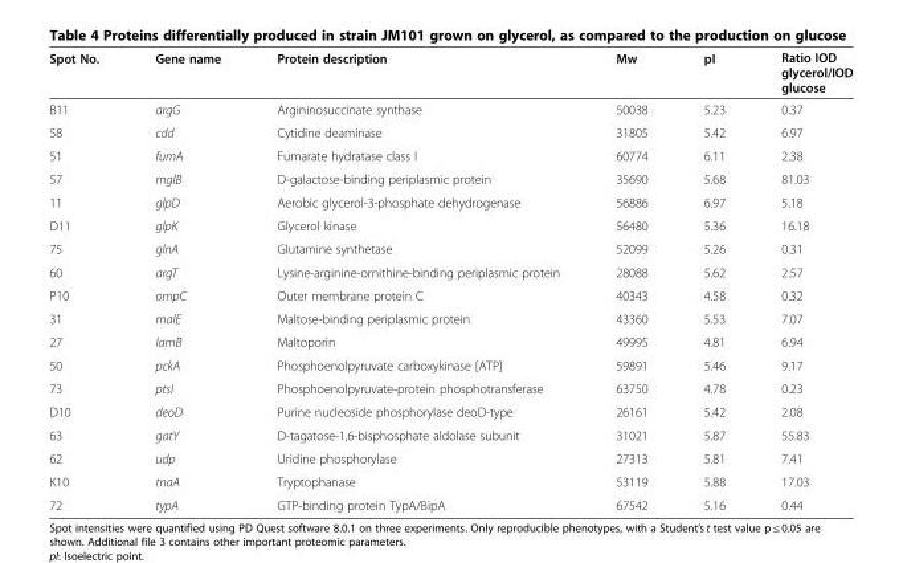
<table><thead><tr><td>Spot No.</td><td>Gene name</td><td>Protein description</td><td>Mw</td><td>pI</td><td>Ratio IOD glycerol/IOD glucose</td></tr></thead><tbody><tr><td>B11</td><td>argG</td><td>Argininosuccinate synthase</td><td>50038</td><td>5.23</td><td>0.37</td></tr><tr><td>58</td><td>cdd</td><td>Cytidine deaminase</td><td>31805</td><td>5.42</td><td>6.97</td></tr><tr><td>51</td><td>fumA</td><td>Fumarate hydratase class I</td><td>60774</td><td>6.11</td><td>2.38</td></tr><tr><td>57</td><td>mglB</td><td>D-galactose-binding periplasmic protein</td><td>35690</td><td>5.68</td><td>81.03</td></tr><tr><td>11</td><td>glpD</td><td>Aerobic glycerol-3-phosphate dehydrogenase</td><td>56886</td><td>6.97</td><td>5.18</td></tr><tr><td>D11</td><td>glpK</td><td>Glycerol kinase</td><td>56480</td><td>5.36</td><td>16.18</td></tr><tr><td>75</td><td>glnA</td><td>Glutamine synthetase</td><td>52099</td><td>5.26</td><td>0.31</td></tr><tr><td>60</td><td>argT</td><td>Lysine-arginine-ornithine-binding periplasmic protein</td><td>28088</td><td>5.62</td><td>2.57</td></tr><tr><td>P10</td><td>ompC</td><td>Outer membrane protein C</td><td>40343</td><td>4.58</td><td>0.32</td></tr><tr><td>31</td><td>malE</td><td>Maltose-binding periplasmic protein</td><td>43360</td><td>5.53</td><td>7.07</td></tr><tr><td>27</td><td>lamB</td><td>Maltoporin</td><td>49995</td><td>4.81</td><td>6.94</td></tr><tr><td>50</td><td>pckA</td><td>Phosphoenolpyruvate carboxykinase [ATP]</td><td>59891</td><td>5.46</td><td>9.17</td></tr><tr><td>73</td><td>ptsI</td><td>Phosphoenolpyruvate-protein phosphotransferase</td><td>63750</td><td>4.78</td><td>0.23</td></tr><tr><td>D10</td><td>deoD</td><td>Purine nucleoside phosphorylase deoD-type</td><td>26161</td><td>5.42</td><td>2.08</td></tr><tr><td>63</td><td>gatY</td><td>D-tagatose-1,6-bisphosphate aldolase subunit</td><td>31021</td><td>5.87</td><td>55.83</td></tr><tr><td>62</td><td>udp</td><td>Uridine phosphorylase</td><td>27313</td><td>5.81</td><td>7.41</td></tr><tr><td>K10</td><td>tnaA</td><td>Tryptophanase</td><td>53119</td><td>5.88</td><td>17.03</td></tr><tr><td>72</td><td>typA</td><td>GTP-binding protein TypA/BipA</td><td>67542</td><td>5.16</td><td>0.44</td></tr></tbody></table>